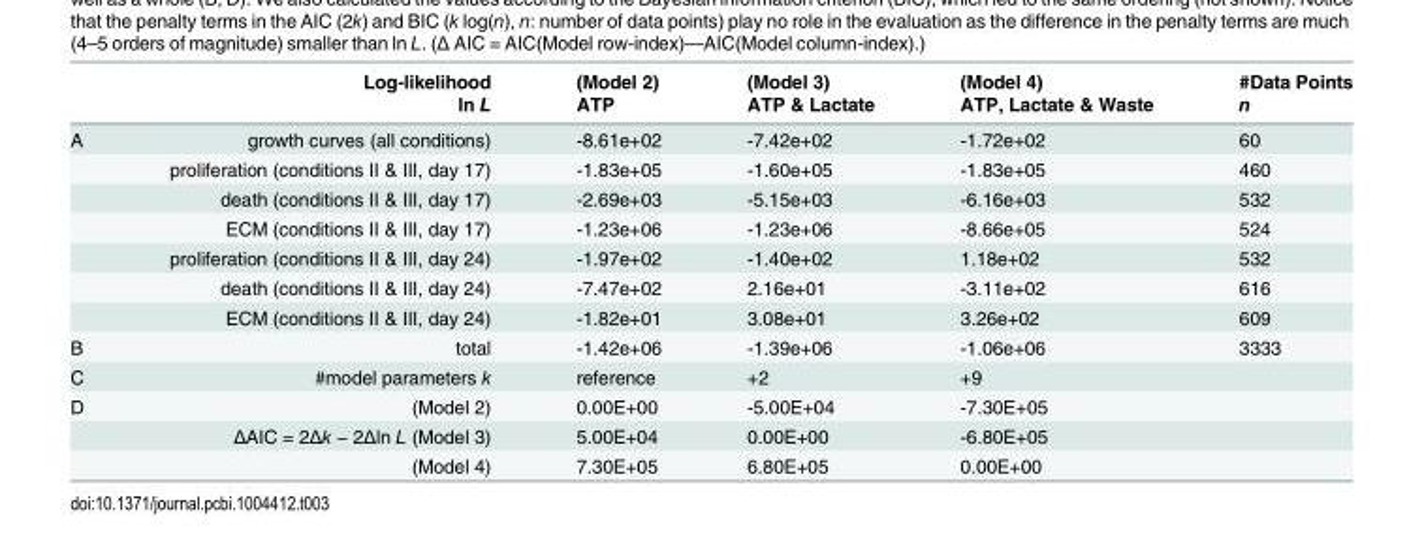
<table><thead><tr><td rowspan="2"></td><td rowspan="2">Log-likelihood ln L</td><td rowspan="2">(Model 2) ATP</td><td rowspan="2">(Model 3) ATP &amp; Lactate</td><td rowspan="2">(Model 4) ATP, Lactate &amp; Waste</td><td rowspan="2">#Data Points n</td></tr><tr></tr></thead><tbody><tr><td rowspan="7">A</td><td>growth curves (all conditions)</td><td>-8.61e+02</td><td>-7.42e+02</td><td>-1.72e+02</td><td>60</td></tr><tr><td>proliferation (conditions II &amp; III, day 17)</td><td>-1.83e+05</td><td>-1.60e+05</td><td>-1.83e+05</td><td>460</td></tr><tr><td>death (conditions II &amp; III, day 17)</td><td>-2.69e+03</td><td>-5.15e+03</td><td>-6.16e+03</td><td>532</td></tr><tr><td>ECM (conditions II &amp; III, day 17)</td><td>-1.23e+06</td><td>-1.23e+06</td><td>-8.66e+05</td><td>524</td></tr><tr><td>proliferation (conditions II &amp; III, day 24)</td><td>-1.97e+02</td><td>-1.40e+02</td><td>1.18e+02</td><td>532</td></tr><tr><td>death (conditions II &amp; III, day 24)</td><td>-7.47e+02</td><td>2.16e+01</td><td>-3.11e+02</td><td>616</td></tr><tr><td>ECM (conditions II &amp; III, day 24)</td><td>-1.82e+01</td><td>3.08e+01</td><td>3.26e+02</td><td>609</td></tr><tr><td>B</td><td>total</td><td>-1.42e+06</td><td>-1.39e+06</td><td>-1.06e+06</td><td>3333</td></tr><tr><td>C</td><td>#model parameters k</td><td>reference</td><td>+2</td><td>+9</td><td></td></tr><tr><td rowspan="3">D</td><td>(Model 2)</td><td>0.00E+00</td><td>-5.00E+04</td><td>-7.30E+05</td><td></td></tr><tr><td>ΔAIC = 2Δk − 2Δln L (Model 3)</td><td>5.00E+04</td><td>0.00E+00</td><td>-6.80E+05</td><td></td></tr><tr><td>(Model 4)</td><td>7.30E+05</td><td>6.80E+05</td><td>0.00E+00</td><td></td></tr></tbody></table>